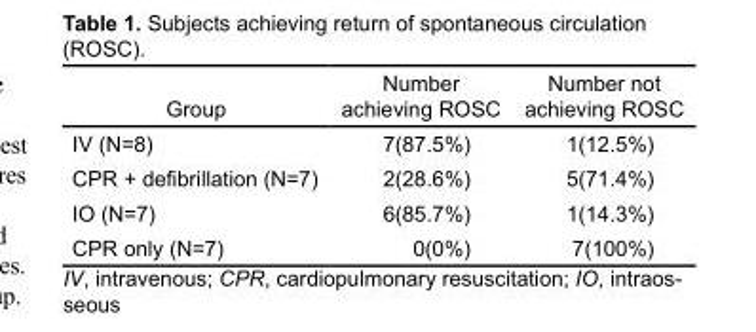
<table><thead><tr><td>Group</td><td>Number achieving ROSC</td><td>Number not achieving ROSC</td></tr></thead><tbody><tr><td>IV (N=8)</td><td>7(87.5%)</td><td>1(12.5%)</td></tr><tr><td>CPR + defibrillation (N=7)</td><td>2(28.6%)</td><td>5(71.4%)</td></tr><tr><td>IO (N=7)</td><td>6(85.7%)</td><td>1(14.3%)</td></tr><tr><td>CPR only (N=7)</td><td>0(0%)</td><td>7(100%)</td></tr></tbody></table>